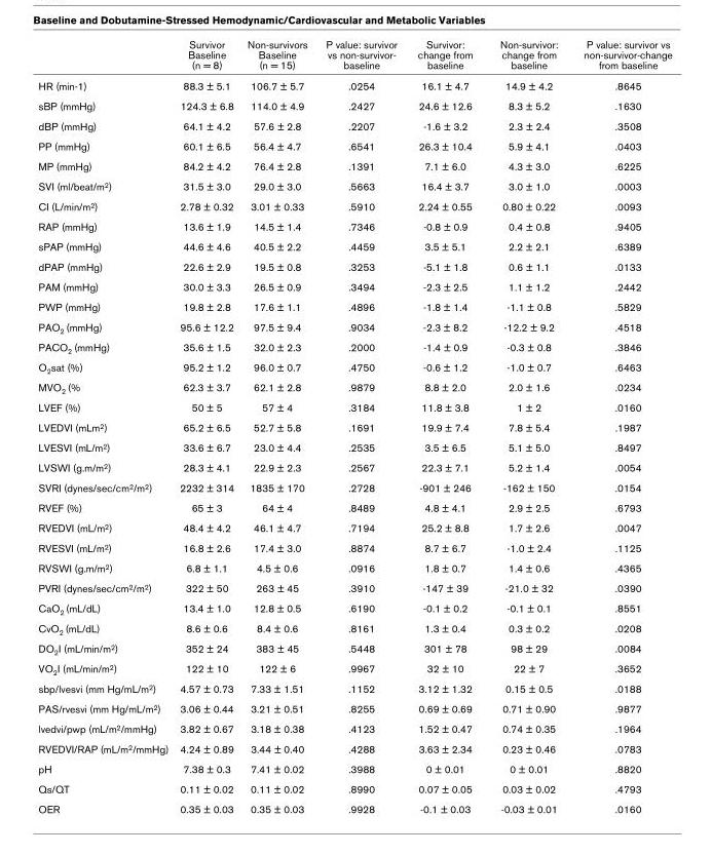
<table><thead><tr><td></td><td>Survivor Baseline (n = 8)</td><td>Non-survivors Baseline (n = 15)</td><td>P value: survivor vs non-survivor- baseline</td><td>Survivor: change from baseline</td><td>Non-survivor: change from baseline</td><td>P value: survivor vs non-survivor-change from baseline</td></tr></thead><tbody><tr><td>HR (min-1)</td><td>88.3 ± 5.1</td><td>106.7 ± 5.7</td><td>.0254</td><td>16.1 ± 4.7</td><td>14.9 ± 4.2</td><td>.8645</td></tr><tr><td>sBP (mmHg)</td><td>124.3 ± 6.8</td><td>114.0 ± 4.9</td><td>.2427</td><td>24.6 ± 12.6</td><td>8.3 ± 5.2</td><td>.1630</td></tr><tr><td>dBP (mmHg)</td><td>64.1 ± 4.2</td><td>57.6 ± 2.8</td><td>.2207</td><td>-1.6 ± 3.2</td><td>2.3 ± 2.4</td><td>.3508</td></tr><tr><td>PP (mmHg)</td><td>60.1 ± 6.5</td><td>56.4 ± 4.7</td><td>.6541</td><td>26.3 ± 10.4</td><td>5.9 ± 4.1</td><td>.0403</td></tr><tr><td>MP (mmHg)</td><td>84.2 ± 4.2</td><td>76.4 ± 2.8</td><td>.1391</td><td>7.1 ± 6.0</td><td>4.3 ± 3.0</td><td>.6225</td></tr><tr><td>SVI (ml/beat/m<sup>2</sup>)</td><td>31.5 ± 3.0</td><td>29.0 ± 3.0</td><td>.5663</td><td>16.4 ± 3.7</td><td>3.0 ± 1.0</td><td>.0003</td></tr><tr><td>CI (L/min/m<sup>2</sup>)</td><td>2.78 ± 0.32</td><td>3.01 ± 0.33</td><td>.5910</td><td>2.24 ± 0.55</td><td>0.80 ± 0.22</td><td>.0093</td></tr><tr><td>RAP (mmHg)</td><td>13.6 ± 1.9</td><td>14.5 ± 1.4</td><td>.7346</td><td>-0.8 ± 0.9</td><td>0.4 ± 0.8</td><td>.9405</td></tr><tr><td>sPAP (mmHg)</td><td>44.6 ± 4.6</td><td>40.5 ± 2.2</td><td>.4459</td><td>3.5 ± 5.1</td><td>2.2 ± 2.1</td><td>.6389</td></tr><tr><td>dPAP (mmHg)</td><td>22.6 ± 2.9</td><td>19.5 ± 0.8</td><td>.3253</td><td>-5.1 ± 1.8</td><td>0.6 ± 1.1</td><td>.0133</td></tr><tr><td>PAM (mmHg)</td><td>30.0 ± 3.3</td><td>26.5 ± 0.9</td><td>.3494</td><td>-2.3 ± 2.5</td><td>1.1 ± 1.2</td><td>.2442</td></tr><tr><td>PWP (mmHg)</td><td>19.8 ± 2.8</td><td>17.6 ± 1.1</td><td>.4896</td><td>-1.8 ± 1.4</td><td>-1.1 ± 0.8</td><td>.5829</td></tr><tr><td>PAO<sub>2</sub> (mmHg)</td><td>95.6 ± 12.2</td><td>97.5 ± 9.4</td><td>.9034</td><td>-2.3 ± 8.2</td><td>-12.2 ± 9.2</td><td>.4518</td></tr><tr><td>PACO<sub>2</sub> (mmHg)</td><td>35.6 ± 1.5</td><td>32.0 ± 2.3</td><td>.2000</td><td>-1.4 ± 0.9</td><td>-0.3 ± 0.8</td><td>.3846</td></tr><tr><td>O<sub>2</sub>sat (%)</td><td>95.2 ± 1.2</td><td>96.0 ± 0.7</td><td>.4750</td><td>-0.6 ± 1.2</td><td>-1.0 ± 0.7</td><td>.6463</td></tr><tr><td>MVO<sub>2</sub> (%</td><td>62.3 ± 3.7</td><td>62.1 ± 2.8</td><td>.9879</td><td>8.8 ± 2.0</td><td>2.0 ± 1.6</td><td>.0234</td></tr><tr><td>LVEF (%)</td><td>50 ± 5</td><td>57 ± 4</td><td>.3184</td><td>11.8 ± 3.8</td><td>1 ± 2</td><td>.0160</td></tr><tr><td>LVEDVI (mLm<sup>2</sup>)</td><td>65.2 ± 6.5</td><td>52.7 ± 5.8</td><td>.1691</td><td>19.9 ± 7.4</td><td>7.8 ± 5.4</td><td>.1987</td></tr><tr><td>LVESVI (mL/m<sup>2</sup>)</td><td>33.6 ± 6.7</td><td>23.0 ± 4.4</td><td>.2535</td><td>3.5 ± 6.5</td><td>5.1 ± 5.0</td><td>.8497</td></tr><tr><td>LVSWI (g.m/m<sup>2</sup>)</td><td>28.3 ± 4.1</td><td>22.9 ± 2.3</td><td>.2567</td><td>22.3 ± 7.1</td><td>5.2 ± 1.4</td><td>.0054</td></tr><tr><td>SVRI (dynes/sec/cm<sup>2</sup>/m<sup>2</sup>)</td><td>2232 ± 314</td><td>1835 ± 170</td><td>.2728</td><td>-901 ± 246</td><td>-162 ± 150</td><td>.0154</td></tr><tr><td>RVEF (%)</td><td>65 ± 3</td><td>64 ± 4</td><td>.8489</td><td>4.8 ± 4.1</td><td>2.9 ± 2.5</td><td>.6793</td></tr><tr><td>RVEDVI (mL/m<sup>2</sup>)</td><td>48.4 ± 4.2</td><td>46.1 ± 4.7</td><td>.7194</td><td>25.2 ± 8.8</td><td>1.7 ± 2.6</td><td>.0047</td></tr><tr><td>RVESVI (mL/m<sup>2</sup>)</td><td>16.8 ± 2.6</td><td>17.4 ± 3.0</td><td>.8874</td><td>8.7 ± 6.7</td><td>-1.0 ± 2.4</td><td>.1125</td></tr><tr><td>RVSWI (g.m/m<sup>2</sup>)</td><td>6.8 ± 1.1</td><td>4.5 ± 0.6</td><td>.0916</td><td>1.8 ± 0.7</td><td>1.4 ± 0.6</td><td>.4365</td></tr><tr><td>PVRI (dynes/sec/cm<sup>2</sup>/m<sup>2</sup>)</td><td>322 ± 50</td><td>263 ± 45</td><td>.3910</td><td>-147 ± 39</td><td>-21.0 ± 32</td><td>.0390</td></tr><tr><td>CaO<sub>2</sub> (mL/dL)</td><td>13.4 ± 1.0</td><td>12.8 ± 0.5</td><td>.6190</td><td>-0.1 ± 0.2</td><td>-0.1 ± 0.1</td><td>.8551</td></tr><tr><td>CvO<sub>2</sub> (mL/dL)</td><td>8.6 ± 0.6</td><td>8.4 ± 0.6</td><td>.8161</td><td>1.3 ± 0.4</td><td>0.3 ± 0.2</td><td>.0208</td></tr><tr><td>DO<sub>2</sub>I (mL/min/m<sup>2</sup>)</td><td>352 ± 24</td><td>383 ± 45</td><td>.5448</td><td>301 ± 78</td><td>98 ± 29</td><td>.0084</td></tr><tr><td>VO<sub>2</sub>I (mL/min/m<sup>2</sup>)</td><td>122 ± 10</td><td>122 ± 6</td><td>.9967</td><td>32 ± 10</td><td>22 ± 7</td><td>.3652</td></tr><tr><td>sbp/lvesvi (mm Hg/mL/m<sup>2</sup>)</td><td>4.57 ± 0.73</td><td>7.33 ± 1.51</td><td>.1152</td><td>3.12 ± 1.32</td><td>0.15 ± 0.5</td><td>.0188</td></tr><tr><td>PAS/rvesvi (mm Hg/mL/m<sup>2</sup>)</td><td>3.06 ± 0.44</td><td>3.21 ± 0.51</td><td>.8255</td><td>0.69 ± 0.69</td><td>0.71 ± 0.90</td><td>.9877</td></tr><tr><td>lvedvi/pwp (mL/m<sup>2</sup>/mmHg)</td><td>3.82 ± 0.67</td><td>3.18 ± 0.38</td><td>.4123</td><td>1.52 ± 0.47</td><td>0.74 ± 0.35</td><td>.1964</td></tr><tr><td>RVEDVI/RAP (mL/m<sup>2</sup>/mmHg)</td><td>4.24 ± 0.89</td><td>3.44 ± 0.40</td><td>.4288</td><td>3.63 ± 2.34</td><td>0.23 ± 0.46</td><td>.0783</td></tr><tr><td>pH</td><td>7.38 ± 0.3</td><td>7.41 ± 0.02</td><td>.3988</td><td>0 ± 0.01</td><td>0 ± 0.01</td><td>.8820</td></tr><tr><td>Qs/QT</td><td>0.11 ± 0.02</td><td>0.11 ± 0.02</td><td>.8990</td><td>0.07 ± 0.05</td><td>0.03 ± 0.02</td><td>.4793</td></tr><tr><td>OER</td><td>0.35 ± 0.03</td><td>0.35 ± 0.03</td><td>.9928</td><td>-0.1 ± 0.03</td><td>-0.03 ± 0.01</td><td>.0160</td></tr></tbody></table>